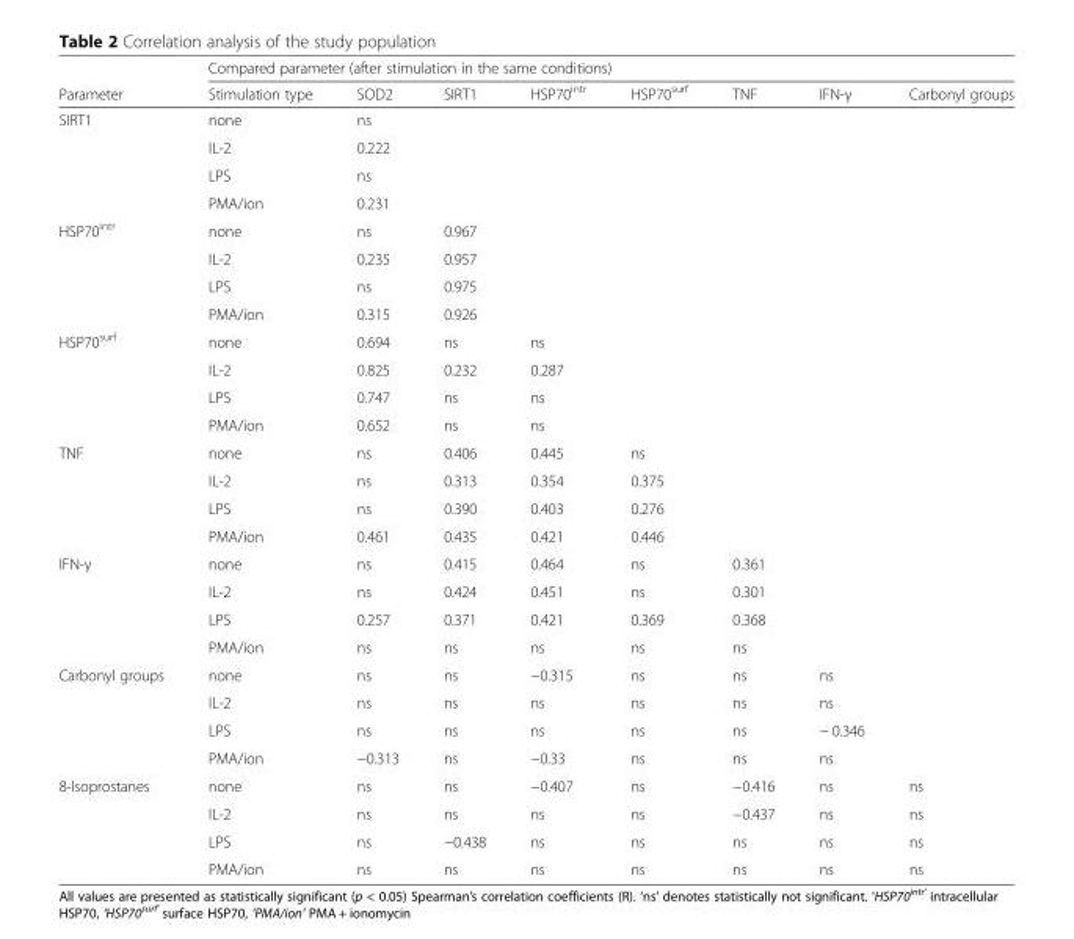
<table><thead><tr><td rowspan="2">Parameter</td><td colspan="8">Compared parameter (after stimulation in the same conditions)</td></tr><tr><td>Stimulation type</td><td>SOD2</td><td>SIRT1</td><td>HSP70<sup>intr</sup></td><td>HSP70<sup>surf</sup></td><td>TNF</td><td>IFN-γ</td><td>Carbonyl groups</td></tr></thead><tbody><tr><td rowspan="4">SIRT1</td><td>none</td><td>ns</td><td></td><td></td><td></td><td></td><td></td><td></td></tr><tr><td>IL-2</td><td>0.222</td><td></td><td></td><td></td><td></td><td></td><td></td></tr><tr><td>LPS</td><td>ns</td><td></td><td></td><td></td><td></td><td></td><td></td></tr><tr><td>PMA/ion</td><td>0.231</td><td></td><td></td><td></td><td></td><td></td><td></td></tr><tr><td rowspan="4">HSP70<sup>intr</sup></td><td>none</td><td>ns</td><td>0.967</td><td></td><td></td><td></td><td></td><td></td></tr><tr><td>IL-2</td><td>0.235</td><td>0.957</td><td></td><td></td><td></td><td></td><td></td></tr><tr><td>LPS</td><td>ns</td><td>0.975</td><td></td><td></td><td></td><td></td><td></td></tr><tr><td>PMA/ion</td><td>0.315</td><td>0.926</td><td></td><td></td><td></td><td></td><td></td></tr><tr><td rowspan="4">HSP70<sup>surf</sup></td><td>none</td><td>0.694</td><td>ns</td><td>ns</td><td></td><td></td><td></td><td></td></tr><tr><td>IL-2</td><td>0.825</td><td>0.232</td><td>0.287</td><td></td><td></td><td></td><td></td></tr><tr><td>LPS</td><td>0.747</td><td>ns</td><td>ns</td><td></td><td></td><td></td><td></td></tr><tr><td>PMA/ion</td><td>0.652</td><td>ns</td><td>ns</td><td></td><td></td><td></td><td></td></tr><tr><td rowspan="4">TNF</td><td>none</td><td>ns</td><td>0.406</td><td>0.445</td><td>ns</td><td></td><td></td><td></td></tr><tr><td>IL-2</td><td>ns</td><td>0.313</td><td>0.354</td><td>0.375</td><td></td><td></td><td></td></tr><tr><td>LPS</td><td>ns</td><td>0.390</td><td>0.403</td><td>0.276</td><td></td><td></td><td></td></tr><tr><td>PMA/ion</td><td>0.461</td><td>0.435</td><td>0.421</td><td>0.446</td><td></td><td></td><td></td></tr><tr><td rowspan="4">IFN-γ</td><td>none</td><td>ns</td><td>0.415</td><td>0.464</td><td>ns</td><td>0.361</td><td></td><td></td></tr><tr><td>IL-2</td><td>ns</td><td>0.424</td><td>0.451</td><td>ns</td><td>0.301</td><td></td><td></td></tr><tr><td>LPS</td><td>0.257</td><td>0.371</td><td>0.421</td><td>0.369</td><td>0.368</td><td></td><td></td></tr><tr><td>PMA/ion</td><td>ns</td><td>ns</td><td>ns</td><td>ns</td><td>ns</td><td></td><td></td></tr><tr><td rowspan="4">Carbonyl groups</td><td>none</td><td>ns</td><td>ns</td><td>−0.315</td><td>ns</td><td>ns</td><td>ns</td><td></td></tr><tr><td>IL-2</td><td>ns</td><td>ns</td><td>ns</td><td>ns</td><td>ns</td><td>ns</td><td></td></tr><tr><td>LPS</td><td>ns</td><td>ns</td><td>ns</td><td>ns</td><td>ns</td><td>− 0.346</td><td></td></tr><tr><td>PMA/ion</td><td>−0.313</td><td>ns</td><td>−0.33</td><td>ns</td><td>ns</td><td>ns</td><td></td></tr><tr><td rowspan="4">8-Isoprostanes</td><td>none</td><td>ns</td><td>ns</td><td>−0.407</td><td>ns</td><td>−0.416</td><td>ns</td><td>ns</td></tr><tr><td>IL-2</td><td>ns</td><td>ns</td><td>ns</td><td>ns</td><td>−0.437</td><td>ns</td><td>ns</td></tr><tr><td>LPS</td><td>ns</td><td>−0.438</td><td>ns</td><td>ns</td><td>ns</td><td>ns</td><td>ns</td></tr><tr><td>PMA/ion</td><td>ns</td><td>ns</td><td>ns</td><td>ns</td><td>ns</td><td>ns</td><td>ns</td></tr></tbody></table>